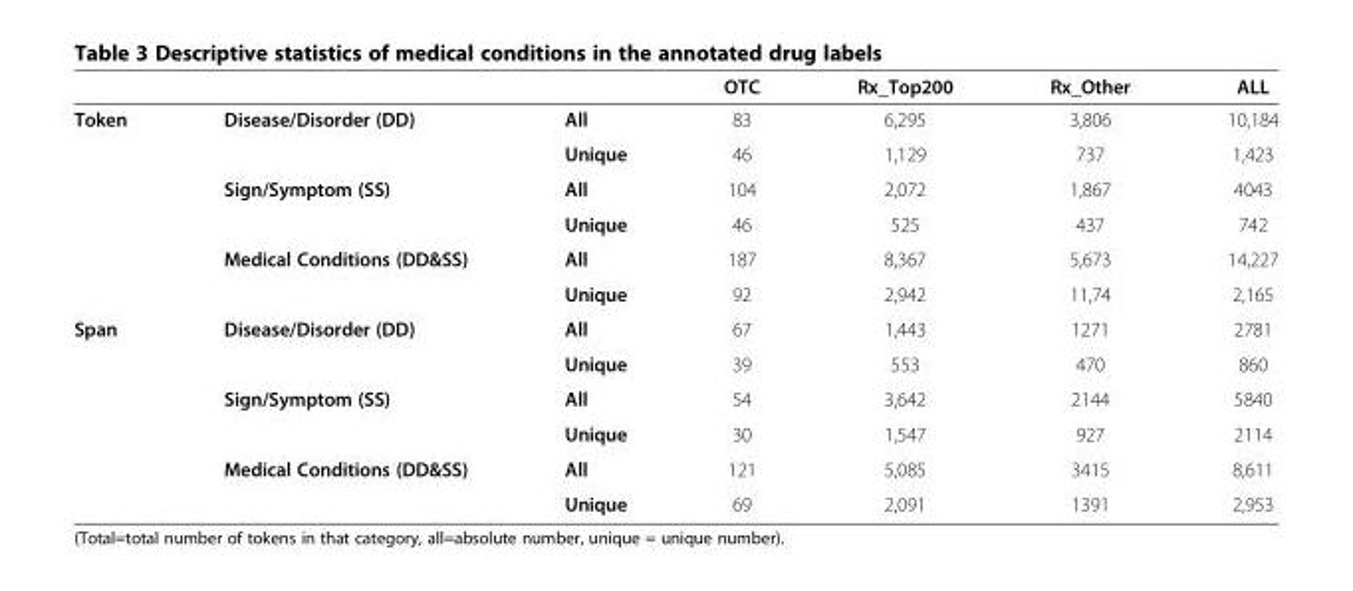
<table><thead><tr><td></td><td></td><td></td><td>OTC</td><td>Rx_Top200</td><td>Rx_Other</td><td>ALL</td></tr></thead><tbody><tr><td rowspan="6">Token</td><td rowspan="2">Disease/Disorder (DD)</td><td>All</td><td>83</td><td>6,295</td><td>3,806</td><td>10,184</td></tr><tr><td>Unique</td><td>46</td><td>1,129</td><td>737</td><td>1,423</td></tr><tr><td rowspan="2">Sign/Symptom (SS)</td><td>All</td><td>104</td><td>2,072</td><td>1,867</td><td>4043</td></tr><tr><td>Unique</td><td>46</td><td>525</td><td>437</td><td>742</td></tr><tr><td rowspan="2">Medical Conditions (DD&amp;SS)</td><td>All</td><td>187</td><td>8,367</td><td>5,673</td><td>14,227</td></tr><tr><td>Unique</td><td>92</td><td>2,942</td><td>11,74</td><td>2,165</td></tr><tr><td rowspan="6">Span</td><td rowspan="2">Disease/Disorder (DD)</td><td>All</td><td>67</td><td>1,443</td><td>1271</td><td>2781</td></tr><tr><td>Unique</td><td>39</td><td>553</td><td>470</td><td>860</td></tr><tr><td rowspan="2">Sign/Symptom (SS)</td><td>All</td><td>54</td><td>3,642</td><td>2144</td><td>5840</td></tr><tr><td>Unique</td><td>30</td><td>1,547</td><td>927</td><td>2114</td></tr><tr><td>Medical Conditions (DD&amp;SS)</td><td>All</td><td>121</td><td>5,085</td><td>3415</td><td>8,611</td></tr><tr><td></td><td>Unique</td><td>69</td><td>2,091</td><td>1391</td><td>2,953</td></tr></tbody></table>